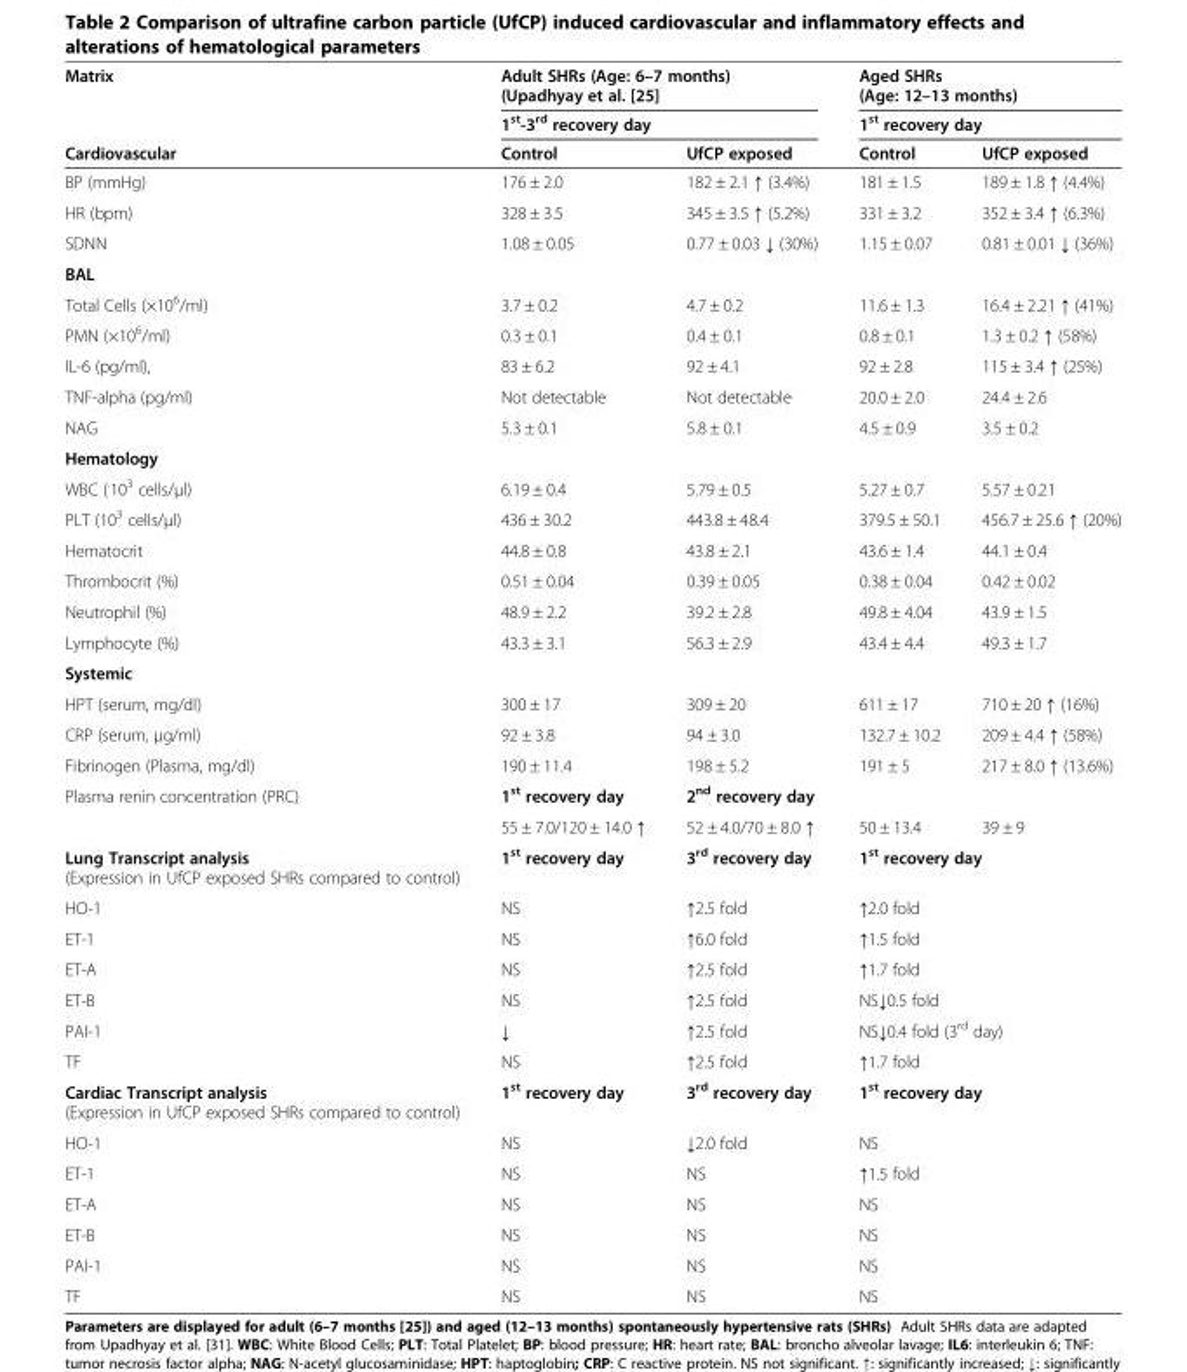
<table><thead><tr><td rowspan="3">Matrix Cardiovascular</td><td rowspan="2" colspan="2">Adult SHRs (Age: 6–7 months) (Upadhyay et al. [25] 1<sup>st</sup>-3<sup>rd</sup> recovery day</td><td rowspan="2" colspan="2">Aged SHRs (Age: 12–13 months) 1<sup>st</sup> recovery day</td></tr><tr></tr><tr><td>Control</td><td>UfCP exposed</td><td>Control</td><td>UfCP exposed</td></tr></thead><tbody><tr><td>BP (mmHg)</td><td>176 ± 2.0</td><td>182 ± 2.1 ↑ (3.4%)</td><td>181 ± 1.5</td><td>189 ± 1.8 ↑ (4.4%)</td></tr><tr><td>HR (bpm)</td><td>328 ± 3.5</td><td>345 ± 3.5 ↑ (5.2%)</td><td>331 ± 3.2</td><td>352 ± 3.4 ↑ (6.3%)</td></tr><tr><td>SDNN</td><td>1.08 ± 0.05</td><td>0.77 ± 0.03 ↓ (30%)</td><td>1.15 ± 0.07</td><td>0.81 ± 0.01 ↓ (36%)</td></tr><tr><td colspan="5">BAL</td></tr><tr><td>Total Cells (×10<sup>6</sup>/ml)</td><td>3.7 ± 0.2</td><td>4.7 ± 0.2</td><td>11.6 ± 1.3</td><td>16.4 ± 2.21 ↑ (41%)</td></tr><tr><td>PMN (×10<sup>6</sup>/ml)</td><td>0.3 ± 0.1</td><td>0.4 ± 0.1</td><td>0.8 ± 0.1</td><td>1.3 ± 0.2 ↑ (58%)</td></tr><tr><td>IL-6 (pg/ml),</td><td>83 ± 6.2</td><td>92 ± 4.1</td><td>92 ± 2.8</td><td>115 ± 3.4 ↑ (25%)</td></tr><tr><td>TNF-alpha (pg/ml)</td><td>Not detectable</td><td>Not detectable</td><td>20.0 ± 2.0</td><td>24.4 ± 2.6</td></tr><tr><td>NAG</td><td>5.3 ± 0.1</td><td>5.8 ± 0.1</td><td>4.5 ± 0.9</td><td>3.5 ± 0.2</td></tr><tr><td colspan="5">Hematology</td></tr><tr><td>WBC (<sup>.</sup>10<sup>3</sup> cells/μl)</td><td>6.19 ± 0.4</td><td>5.79 ± 0.5</td><td>5.27 ± 0.7</td><td>5.57 ± 0.21</td></tr><tr><td>PLT (10<sup>3</sup> cells/μl)</td><td>436 ± 30.2</td><td>443.8 ± 48.4</td><td>379.5 ± 50.1</td><td>456.7 ± 25.6 ↑ (20%)</td></tr><tr><td>Hematocrit</td><td>44.8 ± 0.8</td><td>43.8 ± 2.1</td><td>43.6 ± 1.4</td><td>44.1 ± 0.4</td></tr><tr><td>Thrombocrit (%)</td><td>0.51 ± 0.04</td><td>0.39 ± 0.05</td><td>0.38 ± 0.04</td><td>0.42 ± 0.02</td></tr><tr><td>Neutrophil (%)</td><td>48.9 ± 2.2</td><td>39.2 ± 2.8</td><td>49.8 ± 4.04</td><td>43.9 ± 1.5</td></tr><tr><td>Lymphocyte (%)</td><td>43.3 ± 3.1</td><td>56.3 ± 2.9</td><td>43.4 ± 4.4</td><td>49.3 ± 1.7</td></tr><tr><td colspan="5">Systemic</td></tr><tr><td>HPT (serum, mg/dl)</td><td>300 ± 17</td><td>309 ± 20</td><td>611 ± 17</td><td>710 ± 20 ↑ (16%)</td></tr><tr><td>CRP (serum, μg/ml)</td><td>92 ± 3.8</td><td>94 ± 3.0</td><td>132.7 ± 10.2</td><td>209 ± 4.4 ↑ (58%)</td></tr><tr><td>Fibrinogen (Plasma, mg/dl)</td><td>190 ± 11.4</td><td>198 ± 5.2</td><td>191 ± 5</td><td>217 ± 8.0 ↑ (13.6%)</td></tr><tr><td rowspan="2">Plasma renin concentration (PRC)</td><td>1<sup>st</sup> recovery day</td><td>2<sup>nd</sup> recovery day</td><td></td><td></td></tr><tr><td>55 ± 7.0/120 ± 14.0 ↑</td><td>52 ± 4.0/70 ± 8.0 ↑</td><td>50 ± 13.4</td><td>39 ± 9</td></tr><tr><td>Lung Transcript analysis (Expression in UfCP exposed SHRs compared to control)</td><td>1<sup>st</sup> recovery day</td><td>3<sup>rd</sup> recovery day</td><td colspan="2">1<sup>st</sup> recovery day</td></tr><tr><td>HO-1</td><td>NS</td><td>↑2.5 fold</td><td colspan="2">↑2.0 fold</td></tr><tr><td>ET-1</td><td>NS</td><td>↑6.0 fold</td><td colspan="2">↑1.5 fold</td></tr><tr><td>ET-A</td><td>NS</td><td>↑2.5 fold</td><td colspan="2">↑1.7 fold</td></tr><tr><td>ET-B</td><td>NS</td><td>↑2.5 fold</td><td colspan="2">NS↓0.5 fold</td></tr><tr><td>PAI-1</td><td>↓</td><td>↑2.5 fold</td><td colspan="2">NS↓0.4 fold (3<sup>rd</sup> day)</td></tr><tr><td>TF</td><td>NS</td><td>↑2.5 fold</td><td colspan="2">↑1.7 fold</td></tr><tr><td>Cardiac Transcript analysis (Expression in UfCP exposed SHRs compared to control)</td><td>1<sup>st</sup> recovery day</td><td>3<sup>rd</sup> recovery day</td><td colspan="2">1<sup>st</sup> recovery day</td></tr><tr><td>HO-1</td><td>NS</td><td>↓2.0 fold</td><td colspan="2">NS</td></tr><tr><td>ET-1</td><td>NS</td><td>NS</td><td colspan="2">↑1.5 fold</td></tr><tr><td>ET-A</td><td>NS</td><td>NS</td><td colspan="2">NS</td></tr><tr><td>ET-B</td><td>NS</td><td>NS</td><td colspan="2">NS</td></tr><tr><td>PAI-1</td><td>NS</td><td>NS</td><td colspan="2">NS</td></tr><tr><td>TF</td><td>NS</td><td>NS</td><td colspan="2">NS</td></tr></tbody></table>